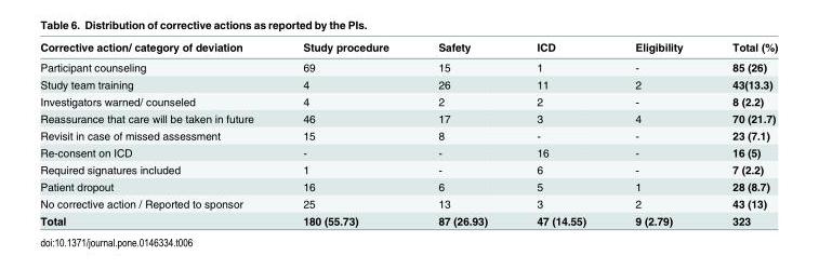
<table><thead><tr><td>Corrective action/ category of deviation</td><td>Study procedure</td><td>Safety</td><td>ICD</td><td>Eligibility</td><td>Total (%)</td></tr></thead><tbody><tr><td>Participant counseling</td><td>69</td><td>15</td><td>1</td><td>-</td><td>85 (26)</td></tr><tr><td>Study team training</td><td>4</td><td>26</td><td>11</td><td>2</td><td>43(13.3)</td></tr><tr><td>Investigators warned/ counseled</td><td>4</td><td>2</td><td>2</td><td>-</td><td>8 (2.2)</td></tr><tr><td>Reassurance that care will be taken in future</td><td>46</td><td>17</td><td>3</td><td>4</td><td>70 (21.7)</td></tr><tr><td>Revisit in case of missed assessment</td><td>15</td><td>8</td><td>-</td><td>-</td><td>23 (7.1)</td></tr><tr><td>Re-consent on ICD</td><td>-</td><td>-</td><td>16</td><td>-</td><td>16 (5)</td></tr><tr><td>Required signatures included</td><td>1</td><td>-</td><td>6</td><td>-</td><td>7 (2.2)</td></tr><tr><td>Patient dropout</td><td>16</td><td>6</td><td>5</td><td>1</td><td>28 (8.7)</td></tr><tr><td>No corrective action / Reported to sponsor</td><td>25</td><td>13</td><td>3</td><td>2</td><td>43 (13)</td></tr><tr><td>Total</td><td>180 (55.73)</td><td>87 (26.93)</td><td>47 (14.55)</td><td>9 (2.79)</td><td>323</td></tr></tbody></table>